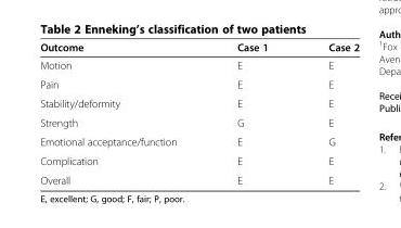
<table><thead><tr><td>Outcome</td><td>Case 1</td><td>Case 2</td></tr></thead><tbody><tr><td>Motion</td><td>E</td><td>E</td></tr><tr><td>Pain</td><td>E</td><td>E</td></tr><tr><td>Stability/deformity</td><td>E</td><td>E</td></tr><tr><td>Strength</td><td>G</td><td>E</td></tr><tr><td>Emotional acceptance/function</td><td>E</td><td>G</td></tr><tr><td>Complication</td><td>E</td><td>E</td></tr><tr><td>Overall</td><td>E</td><td>E</td></tr></tbody></table>